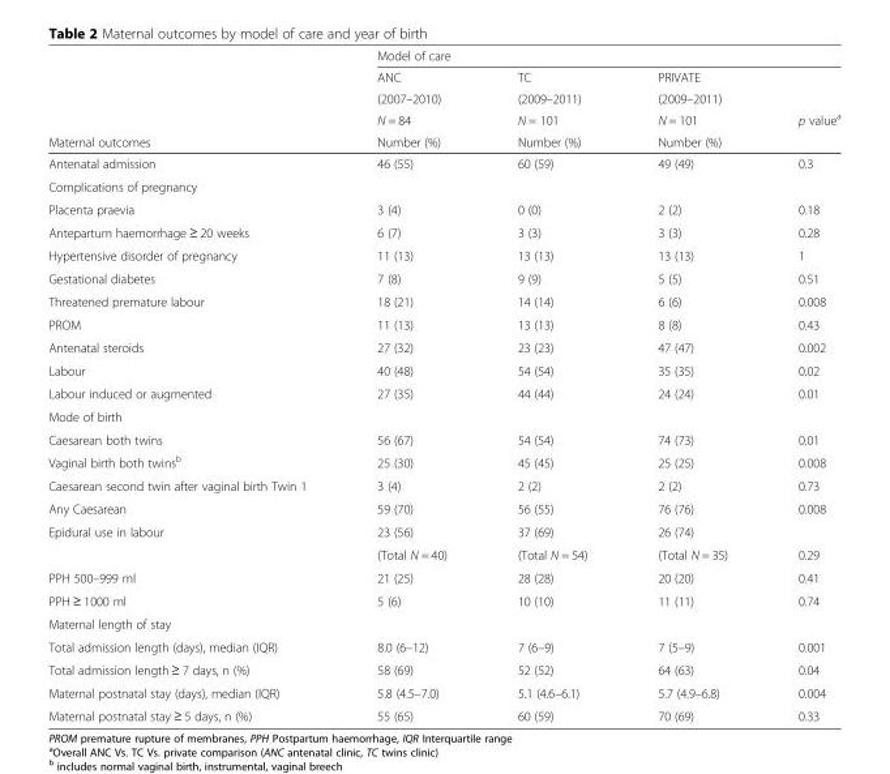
<table><thead><tr><td rowspan="5">Maternal outcomes</td><td colspan="4">Model of care</td></tr><tr><td rowspan="4">ANC (2007–2010) N = 84 Number (%)</td><td rowspan="4">TC (2009–2011) N = 101 Number (%)</td><td rowspan="4">PRIVATE (2009–2011) N = 101 Number (%)</td><td rowspan="4">p value<sup>a</sup></td></tr><tr></tr><tr></tr><tr></tr></thead><tbody><tr><td>Antenatal admission</td><td>46 (55)</td><td>60 (59)</td><td>49 (49)</td><td>0.3</td></tr><tr><td colspan="5">Complications of pregnancy</td></tr><tr><td>Placenta praevia</td><td>3 (4)</td><td>0 (0)</td><td>2 (2)</td><td>0.18</td></tr><tr><td>Antepartum haemorrhage ≥ 20 weeks</td><td>6 (7)</td><td>3 (3)</td><td>3 (3)</td><td>0.28</td></tr><tr><td>Hypertensive disorder of pregnancy</td><td>11 (13)</td><td>13 (13)</td><td>13 (13)</td><td>1</td></tr><tr><td>Gestational diabetes</td><td>7 (8)</td><td>9 (9)</td><td>5 (5)</td><td>0.51</td></tr><tr><td>Threatened premature labour</td><td>18 (21)</td><td>14 (14)</td><td>6 (6)</td><td>0.008</td></tr><tr><td>PROM</td><td>11 (13)</td><td>13 (13)</td><td>8 (8)</td><td>0.43</td></tr><tr><td>Antenatal steroids</td><td>27 (32)</td><td>23 (23)</td><td>47 (47)</td><td>0.002</td></tr><tr><td>Labour</td><td>40 (48)</td><td>54 (54)</td><td>35 (35)</td><td>0.02</td></tr><tr><td>Labour induced or augmented</td><td>27 (35)</td><td>44 (44)</td><td>24 (24)</td><td>0.01</td></tr><tr><td colspan="5">Mode of birth</td></tr><tr><td>Caesarean both twins</td><td>56 (67)</td><td>54 (54)</td><td>74 (73)</td><td>0.01</td></tr><tr><td>Vaginal birth both twins<sup>b</sup></td><td>25 (30)</td><td>45 (45)</td><td>25 (25)</td><td>0.008</td></tr><tr><td>Caesarean second twin after vaginal birth Twin 1</td><td>3 (4)</td><td>2 (2)</td><td>2 (2)</td><td>0.73</td></tr><tr><td>Any Caesarean</td><td>59 (70)</td><td>56 (55)</td><td>76 (76)</td><td>0.008</td></tr><tr><td rowspan="2">Epidural use in labour</td><td>23 (56)</td><td>37 (69)</td><td>26 (74)</td><td></td></tr><tr><td>(Total N = 40)</td><td>(Total N = 54)</td><td>(Total N = 35)</td><td>0.29</td></tr><tr><td>PPH 500–999 ml</td><td>21 (25)</td><td>28 (28)</td><td>20 (20)</td><td>0.41</td></tr><tr><td>PPH ≥ 1000 ml</td><td>5 (6)</td><td>10 (10)</td><td>11 (11)</td><td>0.74</td></tr><tr><td colspan="5">Maternal length of stay</td></tr><tr><td>Total admission length (days), median (IQR)</td><td>8.0 (6–12)</td><td>7 (6–9)</td><td>7 (5–9)</td><td>0.001</td></tr><tr><td>Total admission length ≥ 7 days, n (%)</td><td>58 (69)</td><td>52 (52)</td><td>64 (63)</td><td>0.04</td></tr><tr><td>Maternal postnatal stay (days), median (IQR)</td><td>5.8 (4.5–7.0)</td><td>5.1 (4.6–6.1)</td><td>5.7 (4.9–6.8)</td><td>0.004</td></tr><tr><td>Maternal postnatal stay ≥ 5 days, n (%)</td><td>55 (65)</td><td>60 (59)</td><td>70 (69)</td><td>0.33</td></tr></tbody></table>